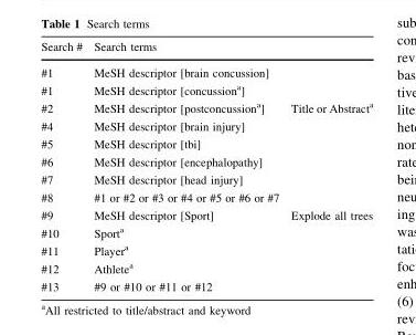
<table><thead><tr><td rowspan="2">Search # #1</td><td colspan="2">Search terms</td></tr><tr><td>MeSH descriptor [brain concussion]</td><td></td></tr></thead><tbody><tr><td>#1</td><td>MeSH descriptor [concussion<sup>a</sup>]</td><td></td></tr><tr><td>#2</td><td>MeSH descriptor [postconcussion<sup>a</sup>]</td><td>Title or Abstract<sup>a</sup></td></tr><tr><td>#4</td><td>MeSH descriptor [brain injury]</td><td></td></tr><tr><td>#5</td><td>MeSH descriptor [tbi]</td><td></td></tr><tr><td>#6</td><td>MeSH descriptor [encephalopathy]</td><td></td></tr><tr><td>#7</td><td>MeSH descriptor [head injury]</td><td></td></tr><tr><td>#8</td><td>#1 or #2 or #3 or #4 or #5 or #6 or #7</td><td></td></tr><tr><td>#9</td><td>MeSH descriptor [Sport]</td><td>Explode all trees</td></tr><tr><td>#10</td><td>Sport<sup>a</sup></td><td></td></tr><tr><td>#11</td><td>Player<sup>a</sup></td><td></td></tr><tr><td>#12</td><td>Athlete<sup>a</sup></td><td></td></tr><tr><td>#13</td><td>#9 or #10 or #11 or #12</td><td></td></tr></tbody></table>